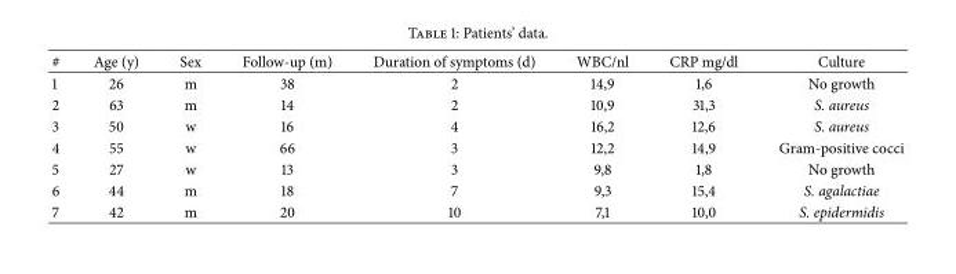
<table><thead><tr><td>#</td><td>Age (y)</td><td>Sex</td><td>Follow-up (m)</td><td>Duration of symptoms (d)</td><td>WBC/nl</td><td>CRP mg/dl</td><td>Culture</td></tr></thead><tbody><tr><td>1</td><td>26</td><td>m</td><td>38</td><td>2</td><td>14,9</td><td>1,6</td><td>No growth</td></tr><tr><td>2</td><td>63</td><td>m</td><td>14</td><td>2</td><td>10,9</td><td>31,3</td><td>S. aureus</td></tr><tr><td>3</td><td>50</td><td>w</td><td>16</td><td>4</td><td>16,2</td><td>12,6</td><td>S. aureus</td></tr><tr><td>4</td><td>55</td><td>w</td><td>66</td><td>3</td><td>12,2</td><td>14,9</td><td>Gram-positive cocci</td></tr><tr><td>5</td><td>27</td><td>w</td><td>13</td><td>3</td><td>9,8</td><td>1,8</td><td>No growth</td></tr><tr><td>6</td><td>44</td><td>m</td><td>18</td><td>7</td><td>9,3</td><td>15,4</td><td>S. agalactiae</td></tr><tr><td>7</td><td>42</td><td>m</td><td>20</td><td>10</td><td>7,1</td><td>10,0</td><td>S. epidermidis</td></tr></tbody></table>